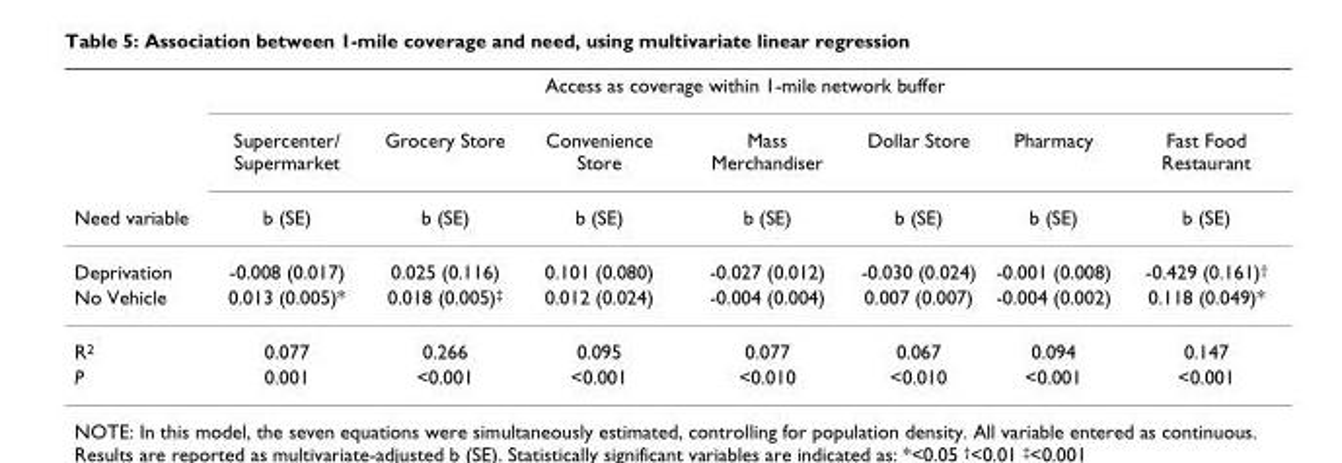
<table><thead><tr><td rowspan="3">Need variable</td><td colspan="7">Access as coverage within 1-mile network buffer</td></tr><tr><td rowspan="2">Supercenter/ Supermarket b (SE)</td><td rowspan="2">Grocery Store b (SE)</td><td rowspan="2">Convenience Store b (SE)</td><td rowspan="2">Mass Merchandiser b (SE)</td><td rowspan="2">Dollar Store b (SE)</td><td rowspan="2">Pharmacy b (SE)</td><td rowspan="2">Fast Food Restaurant b (SE)</td></tr><tr></tr></thead><tbody><tr><td>Deprivation</td><td>-0.008 (0.017)</td><td>0.025 (0.116)</td><td>0.101 (0.080)</td><td>-0.027 (0.012)</td><td>-0.030 (0.024)</td><td>-0.001 (0.008)</td><td>-0.429 (0.161)<sup>†</sup></td></tr><tr><td>No Vehicle</td><td>0.013 (0.005)*</td><td>0.018 (0.005)<sup>‡</sup></td><td>0.012 (0.024)</td><td>-0.004 (0.004)</td><td>0.007 (0.007)</td><td>-0.004 (0.002)</td><td>0.118 (0.049)*</td></tr><tr><td>R<sup>2</sup></td><td>0.077</td><td>0.266</td><td>0.095</td><td>0.077</td><td>0.067</td><td>0.094</td><td>0.147</td></tr><tr><td>P</td><td>0.001</td><td>&lt;0.001</td><td>&lt;0.001</td><td>&lt;0.010</td><td>&lt;0.010</td><td>&lt;0.001</td><td>&lt;0.001</td></tr></tbody></table>